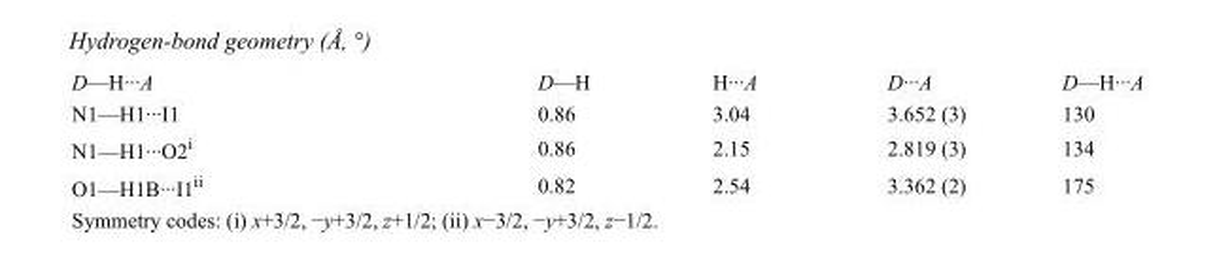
<table><tbody><tr><td>D—H···A</td><td>D—H</td><td>H···A</td><td>D···A</td><td>D—H···A</td></tr><tr><td>N1—H1···I1</td><td>0.86</td><td>3.04</td><td>3.652 (3)</td><td>130</td></tr><tr><td>N1—H1···O2<sup>i</sup></td><td>0.86</td><td>2.15</td><td>2.819 (3)</td><td>134</td></tr><tr><td>O1—H1B···I1<sup>ii</sup></td><td>0.82</td><td>2.54</td><td>3.362 (2)</td><td>175</td></tr></tbody></table>